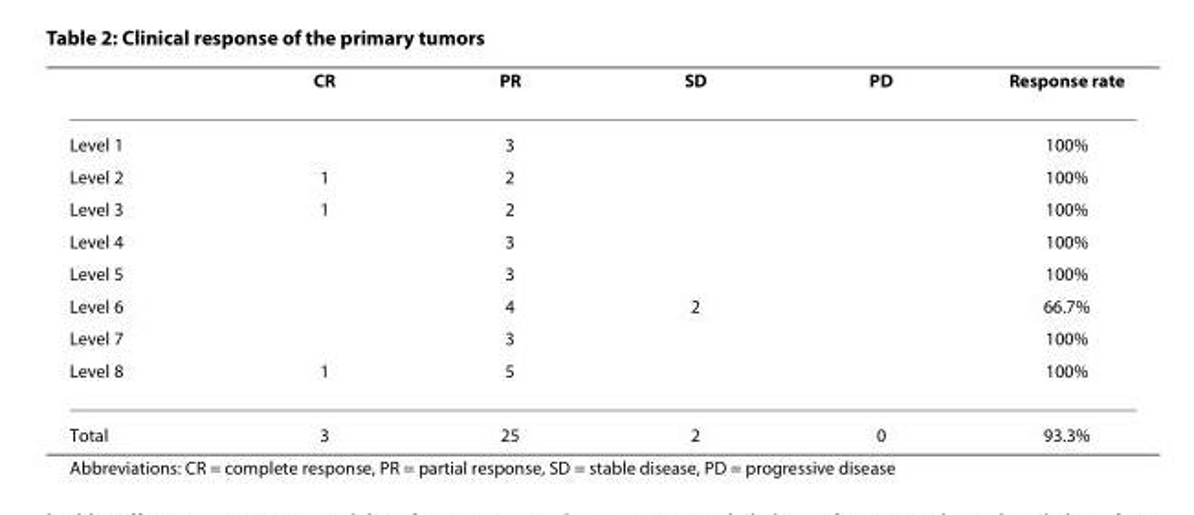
<table><thead><tr><td></td><td>CR</td><td>PR</td><td>SD</td><td>PD</td><td>Response rate</td></tr></thead><tbody><tr><td>Level 1</td><td></td><td>3</td><td></td><td></td><td>100%</td></tr><tr><td>Level 2</td><td>1</td><td>2</td><td></td><td></td><td>100%</td></tr><tr><td>Level 3</td><td>1</td><td>2</td><td></td><td></td><td>100%</td></tr><tr><td>Level 4</td><td></td><td>3</td><td></td><td></td><td>100%</td></tr><tr><td>Level 5</td><td></td><td>3</td><td></td><td></td><td>100%</td></tr><tr><td>Level 6</td><td></td><td>4</td><td>2</td><td></td><td>66.7%</td></tr><tr><td>Level 7</td><td></td><td>3</td><td></td><td></td><td>100%</td></tr><tr><td>Level 8</td><td>1</td><td>5</td><td></td><td></td><td>100%</td></tr><tr><td>Total</td><td>3</td><td>25</td><td>2</td><td>0</td><td>93.3%</td></tr></tbody></table>